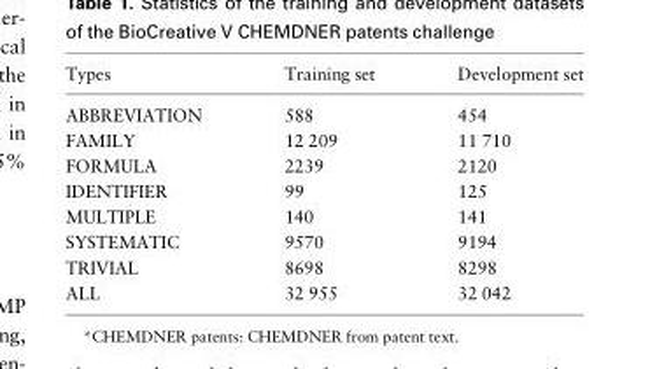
<table><thead><tr><td>Types</td><td>Training set</td><td>Development set</td></tr></thead><tbody><tr><td>ABBREVIATION</td><td>588</td><td>454</td></tr><tr><td>FAMILY</td><td>12 209</td><td>11 710</td></tr><tr><td>FORMULA</td><td>2239</td><td>2120</td></tr><tr><td>IDENTIFIER</td><td>99</td><td>125</td></tr><tr><td>MULTIPLE</td><td>140</td><td>141</td></tr><tr><td>SYSTEMATIC</td><td>9570</td><td>9194</td></tr><tr><td>TRIVIAL</td><td>8698</td><td>8298</td></tr><tr><td>ALL</td><td>32 955</td><td>32 042</td></tr></tbody></table>